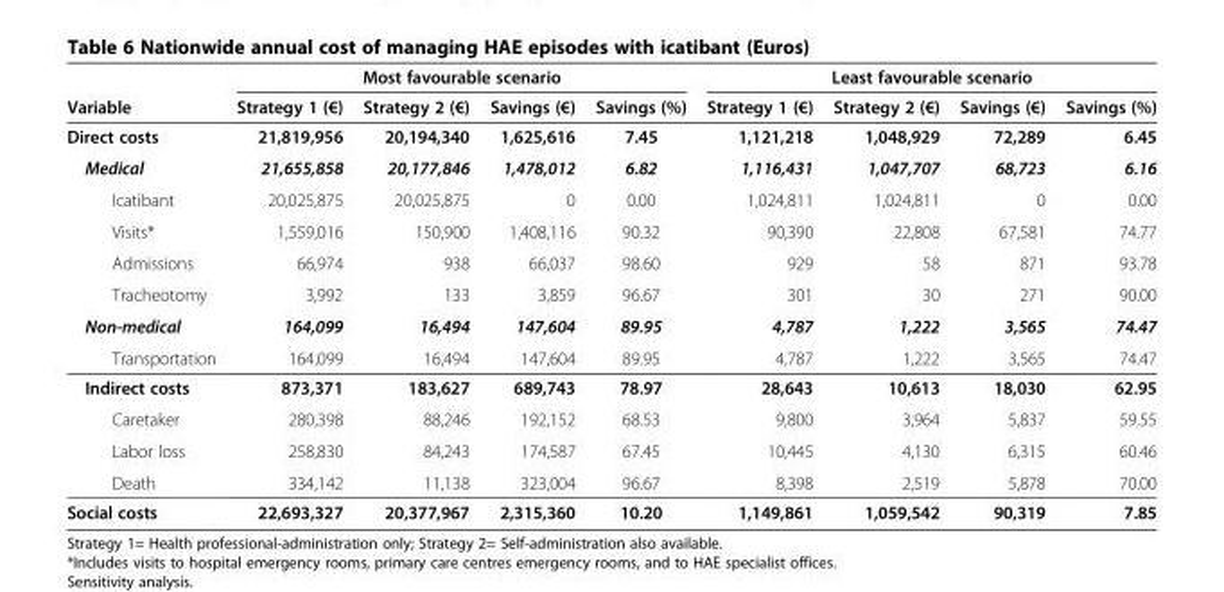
<table><thead><tr><td rowspan="2">Variable</td><td colspan="4">Most favourable scenario</td><td colspan="4">Least favourable scenario</td></tr><tr><td>Strategy 1 (€)</td><td>Strategy 2 (€)</td><td>Savings (€)</td><td>Savings (%)</td><td>Strategy 1 (€)</td><td>Strategy 2 (€)</td><td>Savings (€)</td><td>Savings (%)</td></tr></thead><tbody><tr><td>Direct costs</td><td>21,819,956</td><td>20,194,340</td><td>1,625,616</td><td>7.45</td><td>1,121,218</td><td>1,048,929</td><td>72,289</td><td>6.45</td></tr><tr><td>Medical</td><td>21,655,858</td><td>20,177,846</td><td>1,478,012</td><td>6.82</td><td>1,116,431</td><td>1,047,707</td><td>68,723</td><td>6.16</td></tr><tr><td>Icatibant</td><td>20,025,875</td><td>20,025,875</td><td>0</td><td>0.00</td><td>1,024,811</td><td>1,024,811</td><td>0</td><td>0.00</td></tr><tr><td>Visits*</td><td>1,559,016</td><td>150,900</td><td>1,408,116</td><td>90.32</td><td>90,390</td><td>22,808</td><td>67,581</td><td>74.77</td></tr><tr><td>Admissions</td><td>66,974</td><td>938</td><td>66,037</td><td>98.60</td><td>929</td><td>58</td><td>871</td><td>93.78</td></tr><tr><td>Tracheotomy</td><td>3,992</td><td>133</td><td>3,859</td><td>96.67</td><td>301</td><td>30</td><td>271</td><td>90.00</td></tr><tr><td>Non-medical</td><td>164,099</td><td>16,494</td><td>147,604</td><td>89.95</td><td>4,787</td><td>1,222</td><td>3,565</td><td>74.47</td></tr><tr><td>Transportation</td><td>164,099</td><td>16,494</td><td>147,604</td><td>89.95</td><td>4,787</td><td>1,222</td><td>3,565</td><td>74.47</td></tr><tr><td>Indirect costs</td><td>873,371</td><td>183,627</td><td>689,743</td><td>78.97</td><td>28,643</td><td>10,613</td><td>18,030</td><td>62.95</td></tr><tr><td>Caretaker</td><td>280,398</td><td>88,246</td><td>192,152</td><td>68.53</td><td>9,800</td><td>3,964</td><td>5,837</td><td>59.55</td></tr><tr><td>Labor loss</td><td>258,830</td><td>84,243</td><td>174,587</td><td>67.45</td><td>10,445</td><td>4,130</td><td>6,315</td><td>60.46</td></tr><tr><td>Death</td><td>334,142</td><td>11,138</td><td>323,004</td><td>96.67</td><td>8,398</td><td>2,519</td><td>5,878</td><td>70.00</td></tr><tr><td>Social costs</td><td>22,693,327</td><td>20,377,967</td><td>2,315,360</td><td>10.20</td><td>1,149,861</td><td>1,059,542</td><td>90,319</td><td>7.85</td></tr></tbody></table>